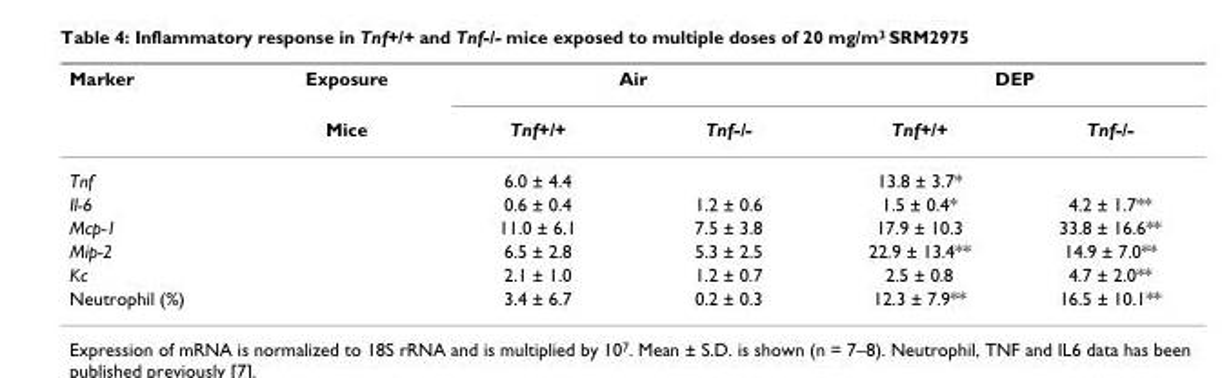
<table><thead><tr><td rowspan="2">Marker</td><td rowspan="2">Exposure Mice</td><td colspan="2">Air</td><td colspan="2">DEP</td></tr><tr><td>Tnf+/+</td><td>Tnf-/-</td><td>Tnf+/+</td><td>Tnf-/-</td></tr></thead><tbody><tr><td>Tnf</td><td></td><td>6.0 ± 4.4</td><td></td><td>13.8 ± 3.7*</td><td></td></tr><tr><td>Il-6</td><td></td><td>0.6 ± 0.4</td><td>1.2 ± 0.6</td><td>1.5 ± 0.4*</td><td>4.2 ± 1.7**</td></tr><tr><td>Mcp-1</td><td></td><td>11.0 ± 6.1</td><td>7.5 ± 3.8</td><td>17.9 ± 10.3</td><td>33.8 ± 16.6**</td></tr><tr><td>Mip-2</td><td></td><td>6.5 ± 2.8</td><td>5.3 ± 2.5</td><td>22.9 ± 13.4**</td><td>14.9 ± 7.0**</td></tr><tr><td>Kc</td><td></td><td>2.1 ± 1.0</td><td>1.2 ± 0.7</td><td>2.5 ± 0.8</td><td>4.7 ± 2.0**</td></tr><tr><td>Neutrophil (%)</td><td></td><td>3.4 ± 6.7</td><td>0.2 ± 0.3</td><td>12.3 ± 7.9**</td><td>16.5 ± 10.1**</td></tr></tbody></table>